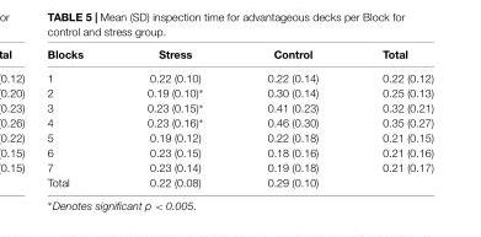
<table><thead><tr><td>Blocks</td><td>Stress</td><td>Control</td><td>Total</td></tr></thead><tbody><tr><td>1</td><td>0.22 (0.10)</td><td>0.22 (0.14)</td><td>0.22 (0.12)</td></tr><tr><td>2</td><td>0.19 (0.10)∗</td><td>0.30 (0.14)</td><td>0.25 (0.13)</td></tr><tr><td>3</td><td>0.23 (0.15)∗</td><td>0.41 (0.23)</td><td>0.32 (0.21)</td></tr><tr><td>4</td><td>0.23 (0.16)∗</td><td>0.46 (0.30)</td><td>0.35 (0.27)</td></tr><tr><td>5</td><td>0.19 (0.12)</td><td>0.22 (0.18)</td><td>0.21 (0.15)</td></tr><tr><td>6</td><td>0.23 (0.15)</td><td>0.18 (0.16)</td><td>0.21 (0.16)</td></tr><tr><td>7</td><td>0.23 (0.14)</td><td>0.19 (0.18)</td><td>0.21 (0.17)</td></tr><tr><td>Total</td><td>0.22 (0.08)</td><td>0.29 (0.10)</td><td></td></tr></tbody></table>